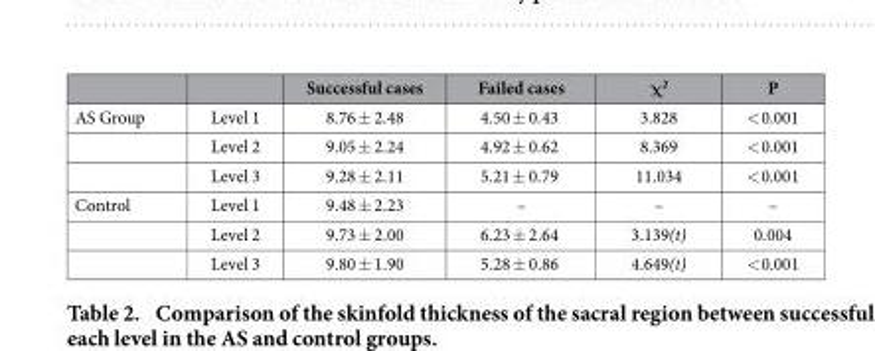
<table><thead><tr><td></td><td></td><td>Successful cases</td><td>Failed cases</td><td>χ<sup>2</sup></td><td>P</td></tr></thead><tbody><tr><td rowspan="3">AS Group</td><td>Level 1</td><td>8.76 ± 2.48</td><td>4.50 ± 0.43</td><td>3.828</td><td>&lt; 0.001</td></tr><tr><td>Level 2</td><td>9.05 ± 2.24</td><td>4.92 ± 0.62</td><td>8.369</td><td>&lt; 0.001</td></tr><tr><td>Level 3</td><td>9.28 ± 2.11</td><td>5.21 ± 0.79</td><td>11.034</td><td>&lt; 0.001</td></tr><tr><td rowspan="3">Control</td><td>Level 1</td><td>9.48 ± 2.23</td><td>–</td><td>–</td><td>–</td></tr><tr><td>Level 2</td><td>9.73 ± 2.00</td><td>6.23 ± 2.64</td><td>3.139(t)</td><td>0.004</td></tr><tr><td>Level 3</td><td>9.80 ± 1.90</td><td>5.28 ± 0.86</td><td>4.649(t)</td><td>&lt; 0.001</td></tr></tbody></table>